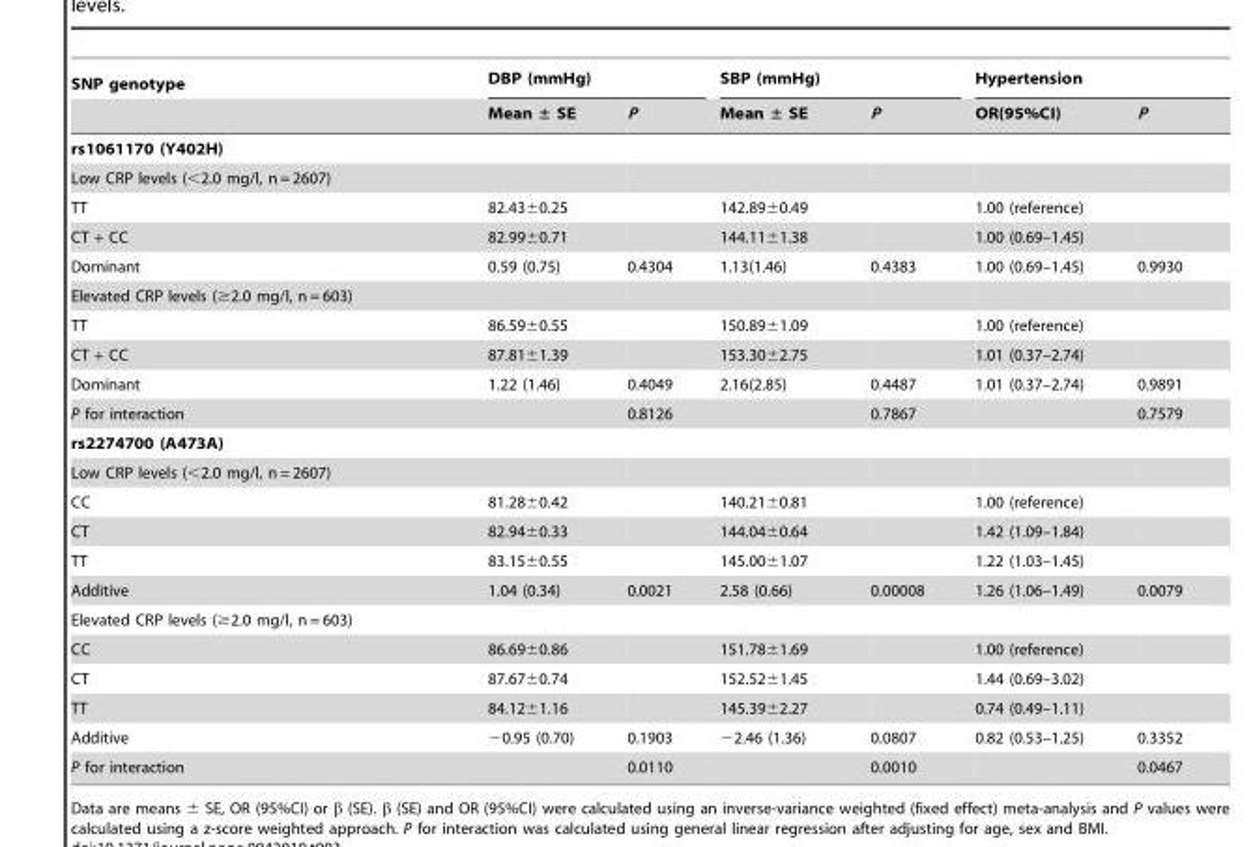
<table><thead><tr><td rowspan="2">SNP genotype</td><td colspan="2">DBP (mmHg)</td><td colspan="2">SBP (mmHg)</td><td colspan="2">Hypertension</td></tr><tr><td>Mean ± SE</td><td>P</td><td>Mean ± SE</td><td>P</td><td>OR(95%CI)</td><td>P</td></tr></thead><tbody><tr><td colspan="7">rs1061170 (Y402H)</td></tr><tr><td colspan="7">Low CRP levels (&lt;2.0 mg/l, n = 2607)</td></tr><tr><td>TT</td><td>82.43±0.25</td><td></td><td>142.89±0.49</td><td></td><td>1.00 (reference)</td><td></td></tr><tr><td>CT + CC</td><td>82.99±0.71</td><td></td><td>144.11±1.38</td><td></td><td>1.00 (0.69–1.45)</td><td></td></tr><tr><td>Dominant</td><td>0.59 (0.75)</td><td>0.4304</td><td>1.13(1.46)</td><td>0.4383</td><td>1.00 (0.69–1.45)</td><td>0.9930</td></tr><tr><td colspan="7">Elevated CRP levels (≥2.0 mg/l, n = 603)</td></tr><tr><td>TT</td><td>86.59±0.55</td><td></td><td>150.89±1.09</td><td></td><td>1.00 (reference)</td><td></td></tr><tr><td>CT + CC</td><td>87.81±1.39</td><td></td><td>153.30±2.75</td><td></td><td>1.01 (0.37–2.74)</td><td></td></tr><tr><td>Dominant</td><td>1.22 (1.46)</td><td>0.4049</td><td>2.16(2.85)</td><td>0.4487</td><td>1.01 (0.37–2.74)</td><td>0.9891</td></tr><tr><td>P for interaction</td><td></td><td>0.8126</td><td></td><td>0.7867</td><td></td><td>0.7579</td></tr><tr><td colspan="7">rs2274700 (A473A)</td></tr><tr><td colspan="7">Low CRP levels (&lt;2.0 mg/l, n = 2607)</td></tr><tr><td>CC</td><td>81.28±0.42</td><td></td><td>140.21±0.81</td><td></td><td>1.00 (reference)</td><td></td></tr><tr><td>CT</td><td>82.94±0.33</td><td></td><td>144.04±0.64</td><td></td><td>1.42 (1.09–1.84)</td><td></td></tr><tr><td>TT</td><td>83.15±0.55</td><td></td><td>145.00±1.07</td><td></td><td>1.22 (1.03–1.45)</td><td></td></tr><tr><td>Additive</td><td>1.04 (0.34)</td><td>0.0021</td><td>2.58 (0.66)</td><td>0.00008</td><td>1.26 (1.06–1.49)</td><td>0.0079</td></tr><tr><td colspan="7">Elevated CRP levels (≥2.0 mg/l, n = 603)</td></tr><tr><td>CC</td><td>86.69±0.86</td><td></td><td>151.78±1.69</td><td></td><td>1.00 (reference)</td><td></td></tr><tr><td>CT</td><td>87.67±0.74</td><td></td><td>152.52±1.45</td><td></td><td>1.44 (0.69–3.02)</td><td></td></tr><tr><td>TT</td><td>84.12±1.16</td><td></td><td>145.39±2.27</td><td></td><td>0.74 (0.49–1.11)</td><td></td></tr><tr><td>Additive</td><td>−0.95 (0.70)</td><td>0.1903</td><td>−2.46 (1.36)</td><td>0.0807</td><td>0.82 (0.53–1.25)</td><td>0.3352</td></tr><tr><td>P for interaction</td><td></td><td>0.0110</td><td></td><td>0.0010</td><td></td><td>0.0467</td></tr></tbody></table>